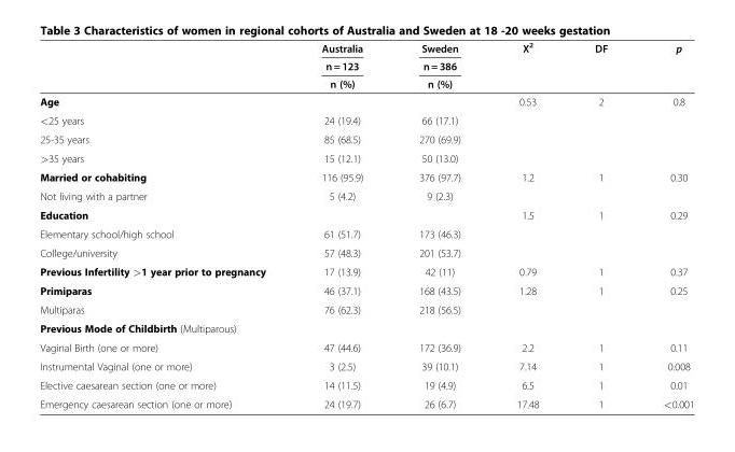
<table><thead><tr><td rowspan="3"></td><td rowspan="3">Australia n = 123 n (%)</td><td rowspan="3">Sweden n = 386 n (%)</td><td rowspan="3">X<sup>2</sup></td><td rowspan="3">DF</td><td rowspan="3">p</td></tr><tr></tr><tr></tr></thead><tbody><tr><td>Age</td><td></td><td></td><td>0.53</td><td>2</td><td>0.8</td></tr><tr><td>&lt;25 years</td><td>24 (19.4)</td><td>66 (17.1)</td><td></td><td></td><td></td></tr><tr><td>25-35 years</td><td>85 (68.5)</td><td>270 (69.9)</td><td></td><td></td><td></td></tr><tr><td>&gt;35 years</td><td>15 (12.1)</td><td>50 (13.0)</td><td></td><td></td><td></td></tr><tr><td>Married or cohabiting</td><td>116 (95.9)</td><td>376 (97.7)</td><td rowspan="2">1.2</td><td rowspan="2">1</td><td rowspan="2">0.30</td></tr><tr><td>Not living with a partner</td><td>5 (4.2)</td><td>9 (2.3)</td></tr><tr><td>Education</td><td></td><td></td><td>1.5</td><td>1</td><td>0.29</td></tr><tr><td>Elementary school/high school</td><td>61 (51.7)</td><td>173 (46.3)</td><td></td><td></td><td></td></tr><tr><td>College/university</td><td>57 (48.3)</td><td>201 (53.7)</td><td></td><td></td><td></td></tr><tr><td>Previous Infertility &gt;1 year prior to pregnancy</td><td>17 (13.9)</td><td>42 (11)</td><td>0.79</td><td>1</td><td>0.37</td></tr><tr><td>Primiparas</td><td>46 (37.1)</td><td>168 (43.5)</td><td>1.28</td><td>1</td><td>0.25</td></tr><tr><td>Multiparas</td><td>76 (62.3)</td><td>218 (56.5)</td><td></td><td></td><td></td></tr><tr><td colspan="6">Previous Mode of Childbirth (Multiparous)</td></tr><tr><td>Vaginal Birth (one or more)</td><td>47 (44.6)</td><td>172 (36.9)</td><td>2.2</td><td>1</td><td>0.11</td></tr><tr><td>Instrumental Vaginal (one or more)</td><td>3 (2.5)</td><td>39 (10.1)</td><td>7.14</td><td>1</td><td>0.008</td></tr><tr><td>Elective caesarean section (one or more)</td><td>14 (11.5)</td><td>19 (4.9)</td><td>6.5</td><td>1</td><td>0.01</td></tr><tr><td>Emergency caesarean section (one or more)</td><td>24 (19.7)</td><td>26 (6.7)</td><td>17.48</td><td>1</td><td>&lt;0.001</td></tr></tbody></table>